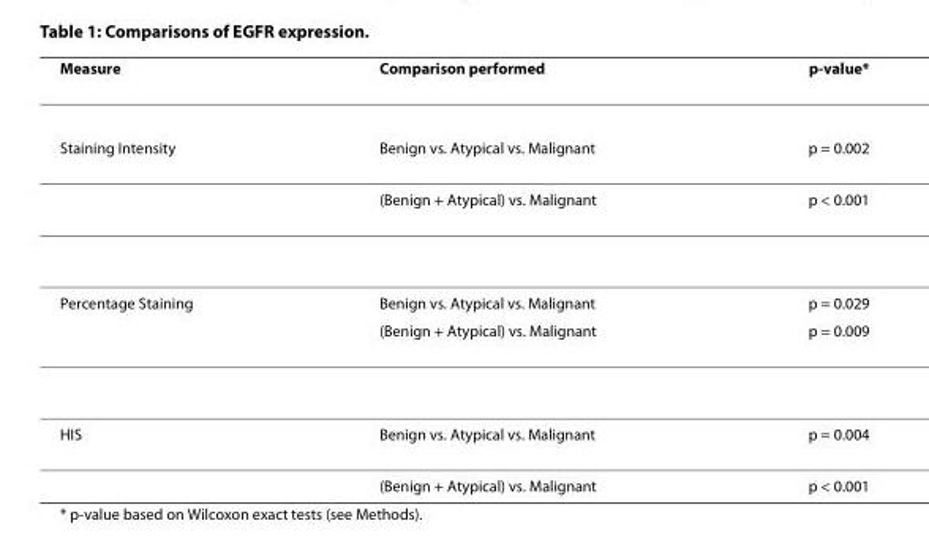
<table><thead><tr><td>Measure</td><td>Comparison performed</td><td>p-value*</td></tr></thead><tbody><tr><td rowspan="2">Staining Intensity</td><td>Benign vs. Atypical vs. Malignant</td><td>p = 0.002</td></tr><tr><td>(Benign + Atypical) vs. Malignant</td><td>p &lt; 0.001</td></tr><tr><td rowspan="2">Percentage Staining</td><td>Benign vs. Atypical vs. Malignant</td><td>p = 0.029</td></tr><tr><td>(Benign + Atypical) vs. Malignant</td><td>p = 0.009</td></tr><tr><td rowspan="2">HIS</td><td>Benign vs. Atypical vs. Malignant</td><td>p = 0.004</td></tr><tr><td>(Benign + Atypical) vs. Malignant</td><td>p &lt; 0.001</td></tr></tbody></table>